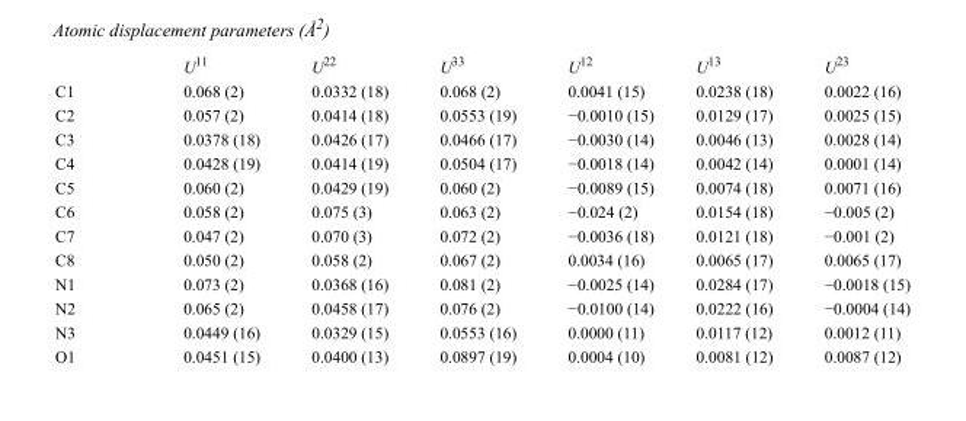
<table><thead><tr><td></td><td>U<sup>11</sup></td><td>U<sup>22</sup></td><td>U<sup>33</sup></td><td>U<sup>12</sup></td><td>U<sup>13</sup></td><td>U<sup>23</sup></td></tr></thead><tbody><tr><td>C1</td><td>0.068 (2)</td><td>0.0332 (18)</td><td>0.068 (2)</td><td>0.0041 (15)</td><td>0.0238 (18)</td><td>0.0022 (16)</td></tr><tr><td>C2</td><td>0.057 (2)</td><td>0.0414 (18)</td><td>0.0553 (19)</td><td>−0.0010 (15)</td><td>0.0129 (17)</td><td>0.0025 (15)</td></tr><tr><td>C3</td><td>0.0378 (18)</td><td>0.0426 (17)</td><td>0.0466 (17)</td><td>−0.0030 (14)</td><td>0.0046 (13)</td><td>0.0028 (14)</td></tr><tr><td>C4</td><td>0.0428 (19)</td><td>0.0414 (19)</td><td>0.0504 (17)</td><td>−0.0018 (14)</td><td>0.0042 (14)</td><td>0.0001 (14)</td></tr><tr><td>C5</td><td>0.060 (2)</td><td>0.0429 (19)</td><td>0.060 (2)</td><td>−0.0089 (15)</td><td>0.0074 (18)</td><td>0.0071 (16)</td></tr><tr><td>C6</td><td>0.058 (2)</td><td>0.075 (3)</td><td>0.063 (2)</td><td>−0.024 (2)</td><td>0.0154 (18)</td><td>−0.005 (2)</td></tr><tr><td>C7</td><td>0.047 (2)</td><td>0.070 (3)</td><td>0.072 (2)</td><td>−0.0036 (18)</td><td>0.0121 (18)</td><td>−0.001 (2)</td></tr><tr><td>C8</td><td>0.050 (2)</td><td>0.058 (2)</td><td>0.067 (2)</td><td>0.0034 (16)</td><td>0.0065 (17)</td><td>0.0065 (17)</td></tr><tr><td>N1</td><td>0.073 (2)</td><td>0.0368 (16)</td><td>0.081 (2)</td><td>−0.0025 (14)</td><td>0.0284 (17)</td><td>−0.0018 (15)</td></tr><tr><td>N2</td><td>0.065 (2)</td><td>0.0458 (17)</td><td>0.076 (2)</td><td>−0.0100 (14)</td><td>0.0222 (16)</td><td>−0.0004 (14)</td></tr><tr><td>N3</td><td>0.0449 (16)</td><td>0.0329 (15)</td><td>0.0553 (16)</td><td>0.0000 (11)</td><td>0.0117 (12)</td><td>0.0012 (11)</td></tr><tr><td>O1</td><td>0.0451 (15)</td><td>0.0400 (13)</td><td>0.0897 (19)</td><td>0.0004 (10)</td><td>0.0081 (12)</td><td>0.0087 (12)</td></tr></tbody></table>